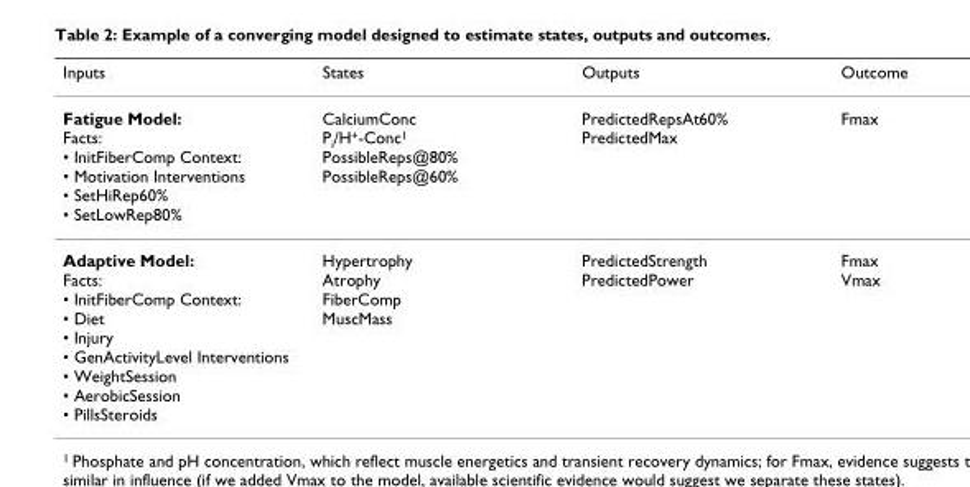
<table><thead><tr><td>Inputs</td><td>States</td><td>Outputs</td><td>Outcome</td></tr></thead><tbody><tr><td>Fatigue Model: Facts: • InitFiberComp Context: • Motivation Interventions • SetHiRep60% • SetLowRep80%</td><td>CalciumConc P<sub>i</sub>/H<sup>+</sup>-Conc<sup>1</sup> PossibleReps@80% PossibleReps@60%</td><td>PredictedRepsAt60% PredictedMax</td><td>Fmax</td></tr><tr><td>Adaptive Model: Facts: • InitFiberComp Context: • Diet • Injury • GenActivityLevel Interventions • WeightSession • AerobicSession • PillsSteroids</td><td>Hypertrophy Atrophy FiberComp MuscMass</td><td>PredictedStrength PredictedPower</td><td>Fmax Vmax</td></tr></tbody></table>